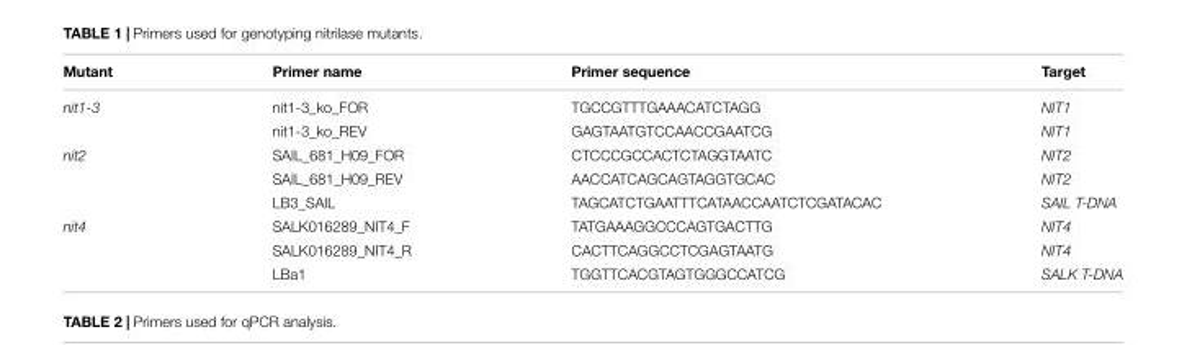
<table><thead><tr><td>Mutant</td><td>Primer name</td><td>Primer sequence</td><td>Target</td></tr></thead><tbody><tr><td rowspan="2">nit1-3</td><td>nit1-3_ko_FOR</td><td>TGCCGTTTGAAACATCTAGG</td><td>NIT1</td></tr><tr><td>nit1-3_ko_REV</td><td>GAGTAATGTCCAACCGAATCG</td><td>NIT1</td></tr><tr><td rowspan="3">nit2</td><td>SAIL_681_H09_FOR</td><td>CTCCCGCCACTCTAGGTAATC</td><td>NIT2</td></tr><tr><td>SAIL_681_H09_REV</td><td>AACCATCAGCAGTAGGTGCAC</td><td>NIT2</td></tr><tr><td>LB3_SAIL</td><td>TAGCATCTGAATTTCATAACCAATCTCGATACAC</td><td>SAIL T-DNA</td></tr><tr><td rowspan="3">nit4</td><td>SALK016289_NIT4_F</td><td>TATGAAAGGCCCAGTGACTTG</td><td>NIT4</td></tr><tr><td>SALK016289_NIT4_R</td><td>CACTTCAGGCCTCGAGTAATG</td><td>NIT4</td></tr><tr><td>LBa1</td><td>TGGTTCACGTAGTGGGCCATCG</td><td>SALK T-DNA</td></tr></tbody></table>